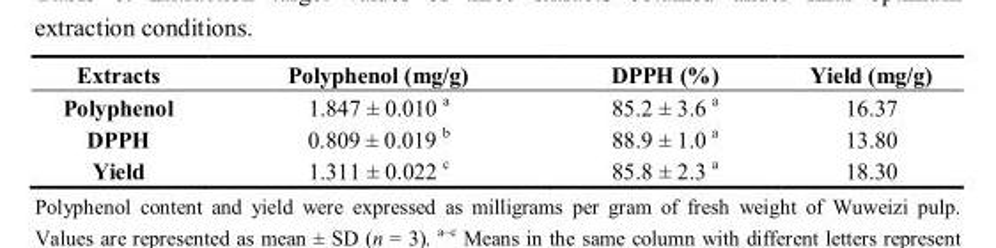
<table><thead><tr><td>Extracts</td><td>Polyphenol (mg/g)</td><td>DPPH (%)</td><td>Yield (mg/g)</td></tr></thead><tbody><tr><td>Polyphenol</td><td>1.847 ± 0.010 a</td><td>85.2 ± 3.6 a</td><td>16.37</td></tr><tr><td>DPPH</td><td>0.809 ± 0.019 b</td><td>88.9 ± 1.0 a</td><td>13.80</td></tr><tr><td>Yield</td><td>1.311 ± 0.022 c</td><td>85.8 ± 2.3 a</td><td>18.30</td></tr></tbody></table>